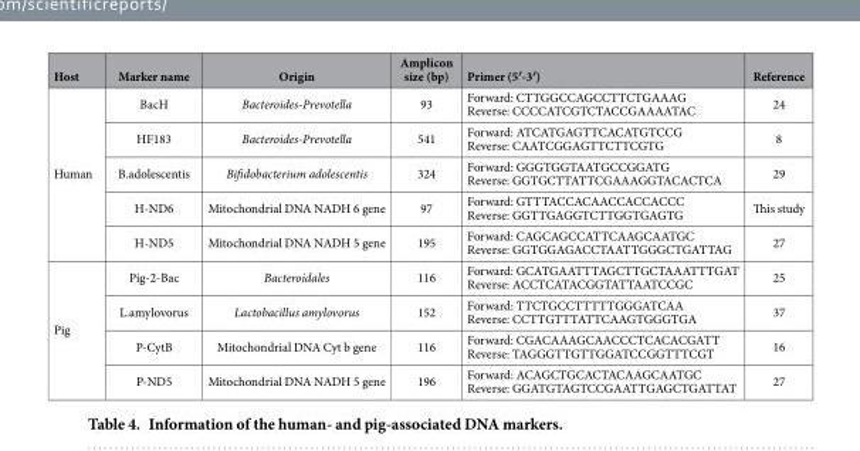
<table><thead><tr><td>Host</td><td>Marker name</td><td>Origin</td><td>Amplicon size (bp)</td><td>Primer (5′-3′)</td><td>Reference</td></tr></thead><tbody><tr><td rowspan="5">Human</td><td>BacH</td><td>Bacteroides-Prevotella</td><td>93</td><td>Forward: CTTGGCCAGCCTTCTGAAAG Reverse: CCCCATCGTCTACCGAAAATAC</td><td>24</td></tr><tr><td>HF183</td><td>Bacteroides-Prevotella</td><td>541</td><td>Forward: ATCATGAGTTCACATGTCCG Reverse: CAATCGGAGTTCTTCGTG</td><td><sup>8</sup></td></tr><tr><td>B.adolescentis</td><td>Bifidobacterium adolescentis</td><td>324</td><td>Forward: GGGTGGTAATGCCGGATG Reverse: GGTGCTTATTCGAAAGGTACACTCA</td><td><sup>29</sup></td></tr><tr><td>H-ND6</td><td>Mitochondrial DNA NADH 6 gene</td><td>97</td><td>Forward: GTTTACCACAACCACCACCC Reverse: GGTTGAGGTCTTGGTGAGTG</td><td>This study</td></tr><tr><td>H-ND5</td><td>Mitochondrial DNA NADH 5 gene</td><td>195</td><td>Forward: CAGCAGCCATTCAAGCAATGC Reverse: GGTGGAGACCTAATTGGGCTGATTAG</td><td>27</td></tr><tr><td rowspan="4">Pig</td><td>Pig-2-Bac</td><td>Bacteroidales</td><td>116</td><td>Forward: GCATGAATTTAGCTTGCTAAATTTGAT Reverse: ACCTCATACGGTATTAATCCGC</td><td>25</td></tr><tr><td>L.amylovorus</td><td>Lactobacillus amylovorus</td><td>152</td><td>Forward: TTCTGCCTTTTTGGGATCAA Reverse: CCTTGTTTATTCAAGTGGGTGA</td><td>37</td></tr><tr><td>P-CytB</td><td>Mitochondrial DNA Cyt b gene</td><td>116</td><td>Forward: CGACAAAGCAACCCTCACACGATT Reverse: TAGGGTTGTTGGATCCGGTTTCGT</td><td>16</td></tr><tr><td>P-ND5</td><td>Mitochondrial DNA NADH 5 gene</td><td>196</td><td>Forward: ACAGCTGCACTACAAGCAATGC Reverse: GGATGTAGTCCGAATTGAGCTGATTAT</td><td>27</td></tr></tbody></table>